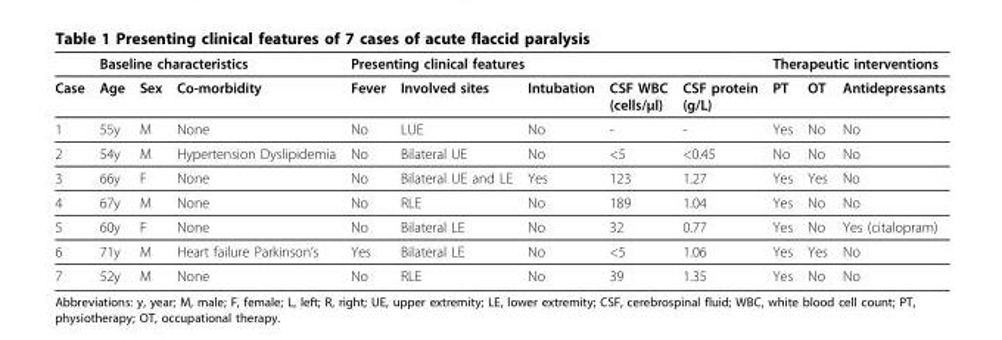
<table><thead><tr><td rowspan="2">Case</td><td colspan="3">Baseline characteristics</td><td colspan="5">Presenting clinical features</td><td colspan="3">Therapeutic interventions</td></tr><tr><td>Age</td><td>Sex</td><td>Co-morbidity</td><td>Fever</td><td>Involved sites</td><td>Intubation</td><td>CSF WBC (cells/μl)</td><td>CSF protein (g/L)</td><td>PT</td><td>OT</td><td>Antidepressants</td></tr></thead><tbody><tr><td>1</td><td>55y</td><td>M</td><td>None</td><td>No</td><td>LUE</td><td>No</td><td>-</td><td>-</td><td>Yes</td><td>No</td><td>No</td></tr><tr><td>2</td><td>54y</td><td>M</td><td>Hypertension Dyslipidemia</td><td>No</td><td>Bilateral UE</td><td>No</td><td>&lt;5</td><td>&lt;0.45</td><td>No</td><td>No</td><td>No</td></tr><tr><td>3</td><td>66y</td><td>F</td><td>None</td><td>No</td><td>Bilateral UE and LE</td><td>Yes</td><td>123</td><td>1.27</td><td>Yes</td><td>Yes</td><td>No</td></tr><tr><td>4</td><td>67y</td><td>M</td><td>None</td><td>No</td><td>RLE</td><td>No</td><td>189</td><td>1.04</td><td>Yes</td><td>No</td><td>No</td></tr><tr><td>5</td><td>60y</td><td>F</td><td>None</td><td>No</td><td>Bilateral LE</td><td>No</td><td>32</td><td>0.77</td><td>Yes</td><td>No</td><td>Yes (citalopram)</td></tr><tr><td>6</td><td>71y</td><td>M</td><td>Heart failure Parkinson’s</td><td>Yes</td><td>Bilateral LE</td><td>No</td><td>&lt;5</td><td>1.06</td><td>Yes</td><td>Yes</td><td>No</td></tr><tr><td>7</td><td>52y</td><td>M</td><td>None</td><td>No</td><td>RLE</td><td>No</td><td>39</td><td>1.35</td><td>Yes</td><td>No</td><td>No</td></tr></tbody></table>